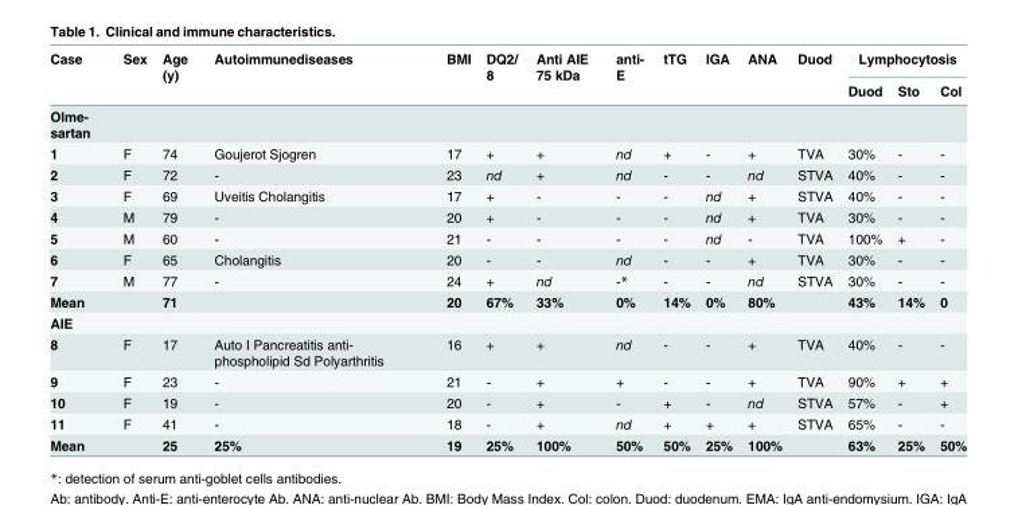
<table><thead><tr><td rowspan="2">Case</td><td rowspan="2">Sex</td><td rowspan="2">Age (y)</td><td rowspan="2">Autoimmunediseases</td><td rowspan="2">BMI</td><td rowspan="2">DQ2/ 8</td><td rowspan="2">Anti AIE 75 kDa</td><td rowspan="2">anti- E</td><td rowspan="2">tTG</td><td rowspan="2">IGA</td><td rowspan="2">ANA</td><td rowspan="2">Duod</td><td colspan="3">Lymphocytosis</td></tr><tr><td>Duod</td><td>Sto</td><td>Col</td></tr></thead><tbody><tr><td colspan="15">Olme- sartan</td></tr><tr><td>1</td><td>F</td><td>74</td><td>Goujerot Sjogren</td><td>17</td><td>+</td><td>+</td><td>nd</td><td>+</td><td>-</td><td>+</td><td>TVA</td><td>30%</td><td>-</td><td>-</td></tr><tr><td>2</td><td>F</td><td>72</td><td>-</td><td>23</td><td>nd</td><td>+</td><td>nd</td><td>-</td><td>-</td><td>nd</td><td>STVA</td><td>40%</td><td>-</td><td>-</td></tr><tr><td>3</td><td>F</td><td>69</td><td>Uveitis Cholangitis</td><td>17</td><td>+</td><td>-</td><td>-</td><td>-</td><td>nd</td><td>+</td><td>STVA</td><td>40%</td><td>-</td><td>-</td></tr><tr><td>4</td><td>M</td><td>79</td><td>-</td><td>20</td><td>+</td><td>-</td><td>-</td><td>-</td><td>nd</td><td>+</td><td>TVA</td><td>30%</td><td>-</td><td>-</td></tr><tr><td>5</td><td>M</td><td>60</td><td>-</td><td>21</td><td>-</td><td>-</td><td>-</td><td>-</td><td>nd</td><td>-</td><td>TVA</td><td>100%</td><td>+</td><td>-</td></tr><tr><td>6</td><td>F</td><td>65</td><td>Cholangitis</td><td>20</td><td>-</td><td>-</td><td>nd</td><td>-</td><td>-</td><td>+</td><td>TVA</td><td>30%</td><td>-</td><td>-</td></tr><tr><td>7</td><td>M</td><td>77</td><td>-</td><td>24</td><td>+</td><td>nd</td><td>-*</td><td>-</td><td>-</td><td>nd</td><td>STVA</td><td>30%</td><td>-</td><td>-</td></tr><tr><td>Mean</td><td></td><td>71</td><td></td><td>20</td><td>67%</td><td>33%</td><td>0%</td><td>14%</td><td>0%</td><td>80%</td><td></td><td>43%</td><td>14%</td><td>0</td></tr><tr><td colspan="15">AIE</td></tr><tr><td>8</td><td>F</td><td>17</td><td>Auto I Pancreatitis anti- phospholipid Sd Polyarthritis</td><td>16</td><td>+</td><td>+</td><td>nd</td><td>-</td><td>-</td><td>+</td><td>TVA</td><td>40%</td><td>-</td><td>-</td></tr><tr><td>9</td><td>F</td><td>23</td><td>-</td><td>21</td><td>-</td><td>+</td><td>+</td><td>-</td><td>-</td><td>+</td><td>TVA</td><td>90%</td><td>+</td><td>+</td></tr><tr><td>10</td><td>F</td><td>19</td><td>-</td><td>20</td><td>-</td><td>+</td><td>-</td><td>+</td><td>-</td><td>nd</td><td>STVA</td><td>57%</td><td>-</td><td>+</td></tr><tr><td>11</td><td>F</td><td>41</td><td>-</td><td>18</td><td>-</td><td>+</td><td>nd</td><td>+</td><td>+</td><td>+</td><td>STVA</td><td>65%</td><td>-</td><td>-</td></tr><tr><td>Mean</td><td></td><td>25</td><td>25%</td><td>19</td><td>25%</td><td>100%</td><td>50%</td><td>50%</td><td>25%</td><td>100%</td><td></td><td>63%</td><td>25%</td><td>50%</td></tr></tbody></table>